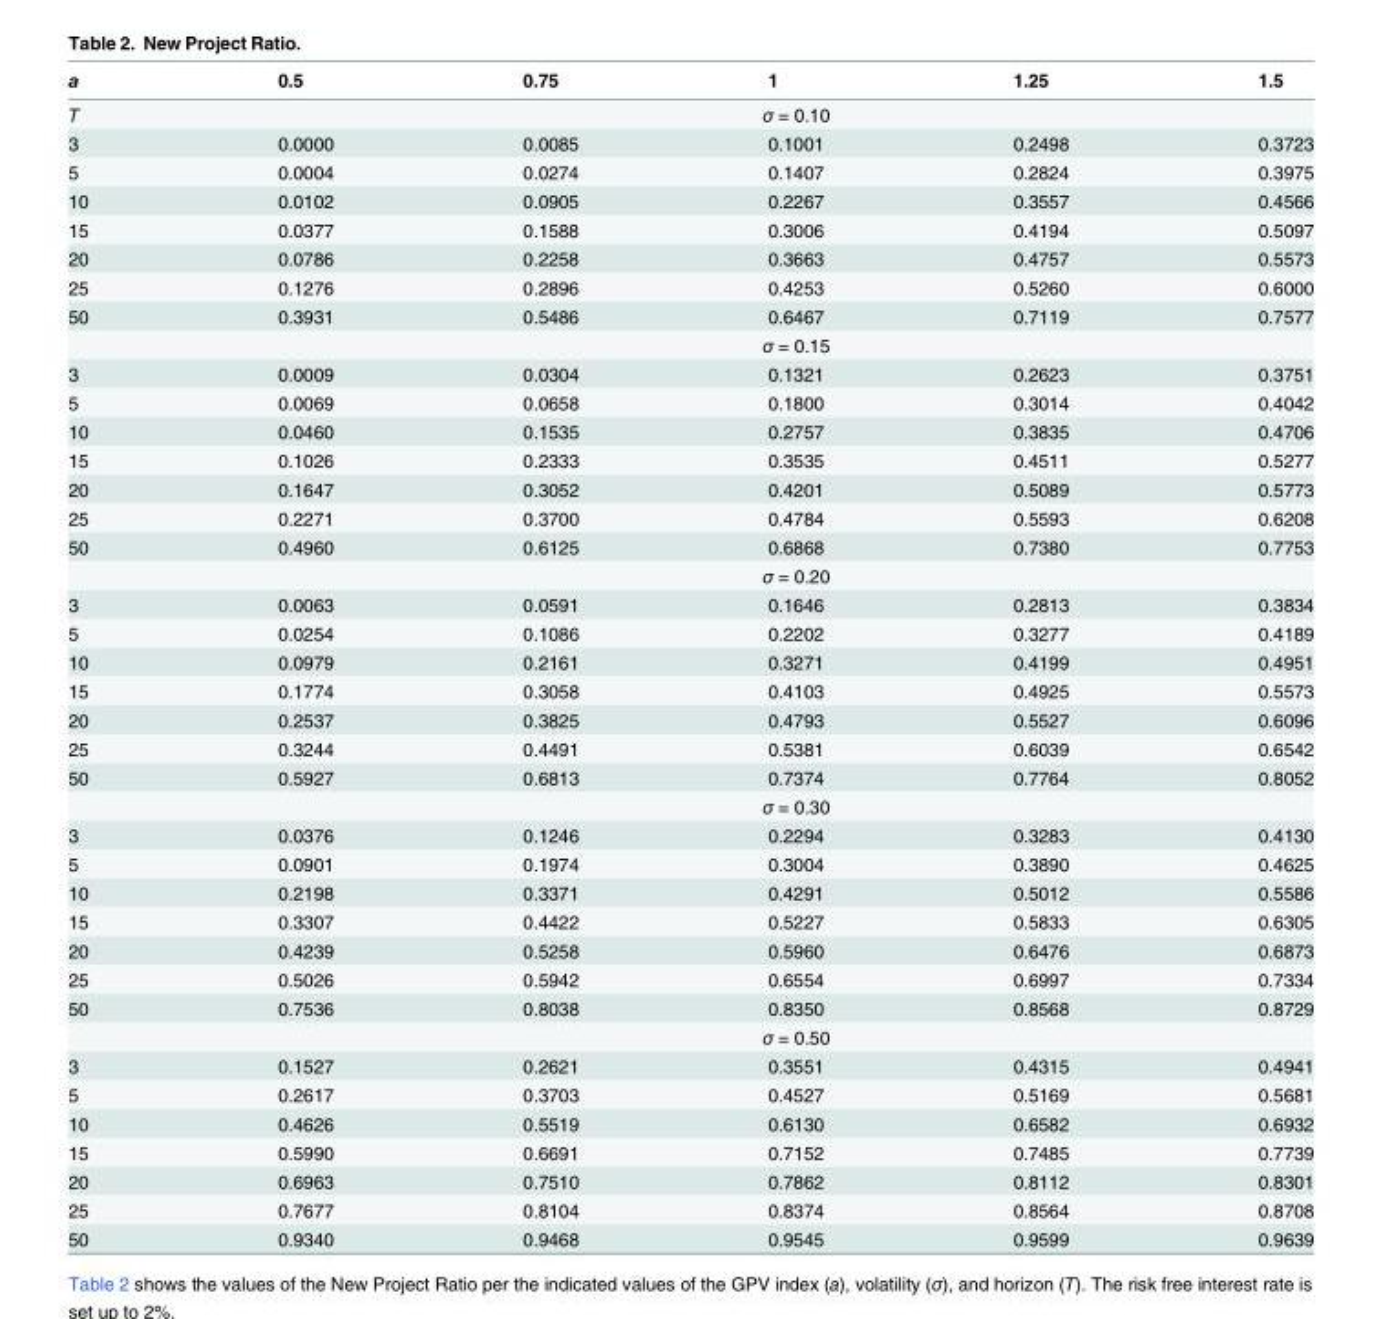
<table><thead><tr><td>a</td><td>0.5</td><td>0.75</td><td>1</td><td>1.25</td><td>1.5</td></tr></thead><tbody><tr><td>T</td><td colspan="5">σ = 0.10</td></tr><tr><td>3</td><td>0.0000</td><td>0.0085</td><td>0.1001</td><td>0.2498</td><td>0.3723</td></tr><tr><td>5</td><td>0.0004</td><td>0.0274</td><td>0.1407</td><td>0.2824</td><td>0.3975</td></tr><tr><td>10</td><td>0.0102</td><td>0.0905</td><td>0.2267</td><td>0.3557</td><td>0.4566</td></tr><tr><td>15</td><td>0.0377</td><td>0.1588</td><td>0.3006</td><td>0.4194</td><td>0.5097</td></tr><tr><td>20</td><td>0.0786</td><td>0.2258</td><td>0.3663</td><td>0.4757</td><td>0.5573</td></tr><tr><td>25</td><td>0.1276</td><td>0.2896</td><td>0.4253</td><td>0.5260</td><td>0.6000</td></tr><tr><td rowspan="2">50</td><td>0.3931</td><td>0.5486</td><td>0.6467</td><td>0.7119</td><td>0.7577</td></tr><tr><td colspan="5">σ = 0.15</td></tr><tr><td>3</td><td>0.0009</td><td>0.0304</td><td>0.1321</td><td>0.2623</td><td>0.3751</td></tr><tr><td>5</td><td>0.0069</td><td>0.0658</td><td>0.1800</td><td>0.3014</td><td>0.4042</td></tr><tr><td>10</td><td>0.0460</td><td>0.1535</td><td>0.2757</td><td>0.3835</td><td>0.4706</td></tr><tr><td>15</td><td>0.1026</td><td>0.2333</td><td>0.3535</td><td>0.4511</td><td>0.5277</td></tr><tr><td>20</td><td>0.1647</td><td>0.3052</td><td>0.4201</td><td>0.5089</td><td>0.5773</td></tr><tr><td>25</td><td>0.2271</td><td>0.3700</td><td>0.4784</td><td>0.5593</td><td>0.6208</td></tr><tr><td rowspan="2">50</td><td>0.4960</td><td>0.6125</td><td>0.6868</td><td>0.7380</td><td>0.7753</td></tr><tr><td colspan="5">σ = 0.20</td></tr><tr><td>3</td><td>0.0063</td><td>0.0591</td><td>0.1646</td><td>0.2813</td><td>0.3834</td></tr><tr><td>5</td><td>0.0254</td><td>0.1086</td><td>0.2202</td><td>0.3277</td><td>0.4189</td></tr><tr><td>10</td><td>0.0979</td><td>0.2161</td><td>0.3271</td><td>0.4199</td><td>0.4951</td></tr><tr><td>15</td><td>0.1774</td><td>0.3058</td><td>0.4103</td><td>0.4925</td><td>0.5573</td></tr><tr><td>20</td><td>0.2537</td><td>0.3825</td><td>0.4793</td><td>0.5527</td><td>0.6096</td></tr><tr><td>25</td><td>0.3244</td><td>0.4491</td><td>0.5381</td><td>0.6039</td><td>0.6542</td></tr><tr><td rowspan="2">50</td><td>0.5927</td><td>0.6813</td><td>0.7374</td><td>0.7764</td><td>0.8052</td></tr><tr><td colspan="5">σ = 0.30</td></tr><tr><td>3</td><td>0.0376</td><td>0.1246</td><td>0.2294</td><td>0.3283</td><td>0.4130</td></tr><tr><td>5</td><td>0.0901</td><td>0.1974</td><td>0.3004</td><td>0.3890</td><td>0.4625</td></tr><tr><td>10</td><td>0.2198</td><td>0.3371</td><td>0.4291</td><td>0.5012</td><td>0.5586</td></tr><tr><td>15</td><td>0.3307</td><td>0.4422</td><td>0.5227</td><td>0.5833</td><td>0.6305</td></tr><tr><td>20</td><td>0.4239</td><td>0.5258</td><td>0.5960</td><td>0.6476</td><td>0.6873</td></tr><tr><td>25</td><td>0.5026</td><td>0.5942</td><td>0.6554</td><td>0.6997</td><td>0.7334</td></tr><tr><td rowspan="2">50</td><td>0.7536</td><td>0.8038</td><td>0.8350</td><td>0.8568</td><td>0.8729</td></tr><tr><td colspan="5">σ = 0.50</td></tr><tr><td>3</td><td>0.1527</td><td>0.2621</td><td>0.3551</td><td>0.4315</td><td>0.4941</td></tr><tr><td>5</td><td>0.2617</td><td>0.3703</td><td>0.4527</td><td>0.5169</td><td>0.5681</td></tr><tr><td>10</td><td>0.4626</td><td>0.5519</td><td>0.6130</td><td>0.6582</td><td>0.6932</td></tr><tr><td>15</td><td>0.5990</td><td>0.6691</td><td>0.7152</td><td>0.7485</td><td>0.7739</td></tr><tr><td>20</td><td>0.6963</td><td>0.7510</td><td>0.7862</td><td>0.8112</td><td>0.8301</td></tr><tr><td>25</td><td>0.7677</td><td>0.8104</td><td>0.8374</td><td>0.8564</td><td>0.8708</td></tr><tr><td>50</td><td>0.9340</td><td>0.9468</td><td>0.9545</td><td>0.9599</td><td>0.9639</td></tr></tbody></table>